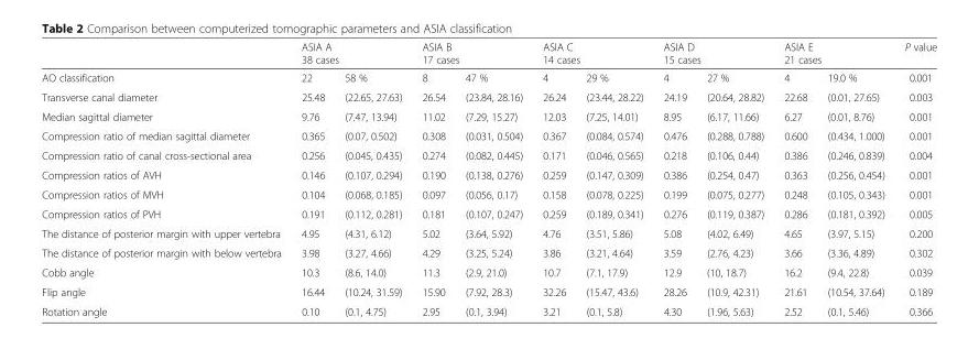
<table><thead><tr><td rowspan="2">AO classification</td><td colspan="2">ASIA A 38 cases</td><td colspan="2">ASIA B 17 cases</td><td colspan="2">ASIA C 14 cases</td><td colspan="2">ASIA D 15 cases</td><td colspan="2">ASIA E 21 cases</td><td rowspan="2">P value 0.001</td></tr><tr><td>22</td><td>58 %</td><td>8</td><td>47 %</td><td>4</td><td>29 %</td><td>4</td><td>27 %</td><td>4</td><td>19.0 %</td></tr></thead><tbody><tr><td>Transverse canal diameter</td><td>25.48</td><td>(22.65, 27.63)</td><td>26.54</td><td>(23.84, 28.16)</td><td>26.24</td><td>(23.44, 28.22)</td><td>24.19</td><td>(20.64, 28.82)</td><td>22.68</td><td>(0.01, 27.65)</td><td>0.003</td></tr><tr><td>Median sagittal diameter</td><td>9.76</td><td>(7.47, 13.94)</td><td>11.02</td><td>(7.29, 15.27)</td><td>12.03</td><td>(7.25, 14.01)</td><td>8.95</td><td>(6.17, 11.66)</td><td>6.27</td><td>(0.01, 8.76)</td><td>0.001</td></tr><tr><td>Compression ratio of median sagittal diameter</td><td>0.365</td><td>(0.07, 0.502)</td><td>0.308</td><td>(0.031, 0.504)</td><td>0.367</td><td>(0.084, 0.574)</td><td>0.476</td><td>(0.288, 0.788)</td><td>0.600</td><td>(0.434, 1.000)</td><td>0.001</td></tr><tr><td>Compression ratio of canal cross-sectional area</td><td>0.256</td><td>(0.045, 0.435)</td><td>0.274</td><td>(0.082, 0.445)</td><td>0.171</td><td>(0.046, 0.565)</td><td>0.218</td><td>(0.106, 0.44)</td><td>0.386</td><td>(0.246, 0.839)</td><td>0.004</td></tr><tr><td>Compression ratios of AVH</td><td>0.146</td><td>(0.107, 0.294)</td><td>0.190</td><td>(0.138, 0.276)</td><td>0.259</td><td>(0.147, 0.309)</td><td>0.386</td><td>(0.254, 0.47)</td><td>0.363</td><td>(0.256, 0.454)</td><td>0.001</td></tr><tr><td>Compression ratios of MVH</td><td>0.104</td><td>(0.068, 0.185)</td><td>0.097</td><td>(0.056, 0.17)</td><td>0.158</td><td>(0.078, 0.225)</td><td>0.199</td><td>(0.075, 0.277)</td><td>0.248</td><td>(0.105, 0.343)</td><td>0.001</td></tr><tr><td>Compression ratios of PVH</td><td>0.191</td><td>(0.112, 0.281)</td><td>0.181</td><td>(0.107, 0.247)</td><td>0.259</td><td>(0.189, 0.341)</td><td>0.276</td><td>(0.119, 0.387)</td><td>0.286</td><td>(0.181, 0.392)</td><td>0.005</td></tr><tr><td>The distance of posterior margin with upper vertebra</td><td>4.95</td><td>(4.31, 6.12)</td><td>5.02</td><td>(3.64, 5.92)</td><td>4.76</td><td>(3.51, 5.86)</td><td>5.08</td><td>(4.02, 6.49)</td><td>4.65</td><td>(3.97, 5.15)</td><td>0.200</td></tr><tr><td>The distance of posterior margin with below vertebra</td><td>3.98</td><td>(3.27, 4.66)</td><td>4.29</td><td>(3.25, 5.24)</td><td>3.86</td><td>(3.21, 4.64)</td><td>3.59</td><td>(2.76, 4.23)</td><td>3.66</td><td>(3.36, 4.89)</td><td>0.302</td></tr><tr><td>Cobb angle</td><td>10.3</td><td>(8.6, 14.0)</td><td>11.3</td><td>(2.9, 21.0)</td><td>10.7</td><td>(7.1, 17.9)</td><td>12.9</td><td>(10, 18.7)</td><td>16.2</td><td>(9.4, 22.8)</td><td>0.039</td></tr><tr><td>Flip angle</td><td>16.44</td><td>(10.24, 31.59)</td><td>15.90</td><td>(7.92, 28.3)</td><td>32.26</td><td>(15.47, 43.6)</td><td>28.26</td><td>(10.9, 42.31)</td><td>21.61</td><td>(10.54, 37.64)</td><td>0.189</td></tr><tr><td>Rotation angle</td><td>0.10</td><td>(0.1, 4.75)</td><td>2.95</td><td>(0.1, 3.94)</td><td>3.21</td><td>(0.1, 5.8)</td><td>4.30</td><td>(1.96, 5.63)</td><td>2.52</td><td>(0.1, 5.46)</td><td>0.366</td></tr></tbody></table>